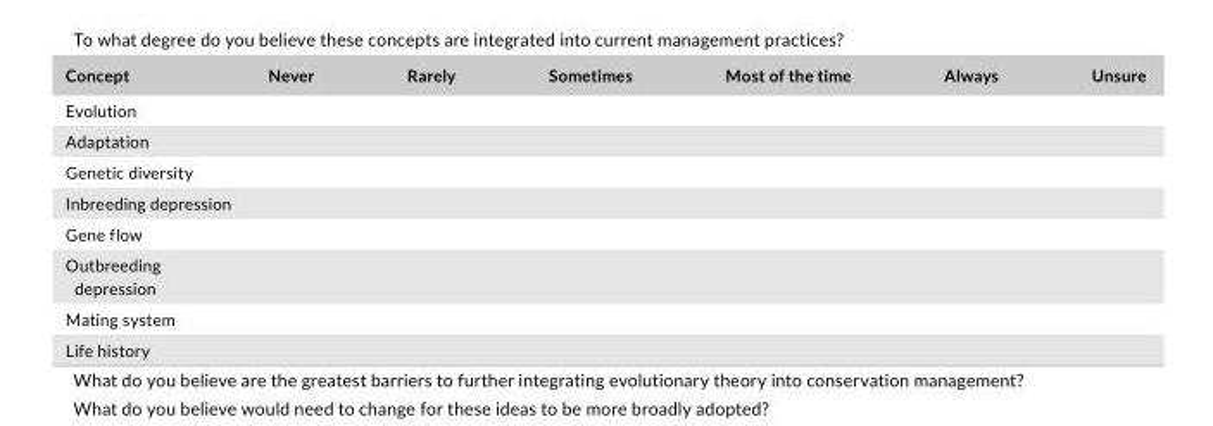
<table><thead><tr><td>Concept</td><td>Never</td><td>Rarely</td><td>Sometimes</td><td>Most of the time</td><td>Always</td><td>Unsure</td></tr></thead><tbody><tr><td colspan="7">Evolution</td></tr><tr><td colspan="7">Adaptation</td></tr><tr><td colspan="7">Genetic diversity</td></tr><tr><td colspan="7">Inbreeding depression</td></tr><tr><td colspan="7">Gene flow</td></tr><tr><td colspan="7">Outbreeding depression</td></tr><tr><td colspan="7">Mating system</td></tr><tr><td>Life history</td><td></td><td></td><td></td><td></td><td></td><td></td></tr></tbody></table>